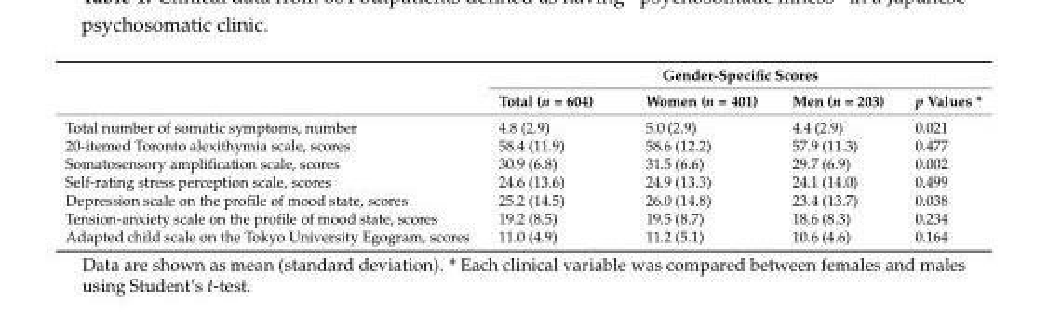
<table><thead><tr><td rowspan="2"></td><td colspan="4">Gender-Specific Scores</td></tr><tr><td>Total (n = 604)</td><td>Women (n = 401)</td><td>Men (n = 203)</td><td>p Values *</td></tr></thead><tbody><tr><td>Total number of somatic symptoms, number</td><td>4.8 (2.9)</td><td>5.0 (2.9)</td><td>4.4 (2.9)</td><td>0.021</td></tr><tr><td>20-itemed Toronto alexithymia scale, scores</td><td>58.4 (11.9)</td><td>58.6 (12.2)</td><td>57.9 (11.3)</td><td>0.477</td></tr><tr><td>Somatosensory amplification scale, scores</td><td>30.9 (6.8)</td><td>31.5 (6.6)</td><td>29.7 (6.9)</td><td>0.002</td></tr><tr><td>Self-rating stress perception scale, scores</td><td>24.6 (13.6)</td><td>24.9 (13.3)</td><td>24.1 (14.0)</td><td>0.499</td></tr><tr><td>Depression scale on the profile of mood state, scores</td><td>25.2 (14.5)</td><td>26.0 (14.8)</td><td>23.4 (13.7)</td><td>0.038</td></tr><tr><td>Tension-anxiety scale on the profile of mood state, scores</td><td>19.2 (8.5)</td><td>19.5 (8.7)</td><td>18.6 (8.3)</td><td>0.234</td></tr><tr><td>Adapted child scale on the Tokyo University Egogram, scores</td><td>11.0 (4.9)</td><td>11.2 (5.1)</td><td>10.6 (4.6)</td><td>0.164</td></tr></tbody></table>